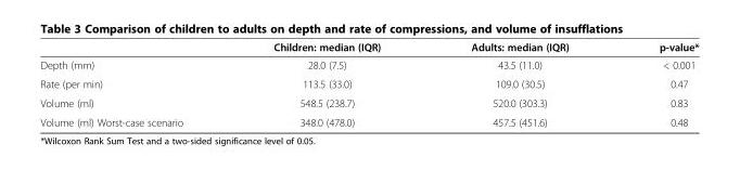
<table><thead><tr><td></td><td>Children: median (IQR)</td><td>Adults: median (IQR)</td><td>p-value*</td></tr></thead><tbody><tr><td>Depth (mm)</td><td>28.0 (7.5)</td><td>43.5 (11.0)</td><td>&lt; 0.001</td></tr><tr><td>Rate (per min)</td><td>113.5 (33.0)</td><td>109.0 (30.5)</td><td>0.47</td></tr><tr><td>Volume (ml)</td><td>548.5 (238.7)</td><td>520.0 (303.3)</td><td>0.83</td></tr><tr><td>Volume (ml) Worst-case scenario</td><td>348.0 (478.0)</td><td>457.5 (451.6)</td><td>0.48</td></tr></tbody></table>